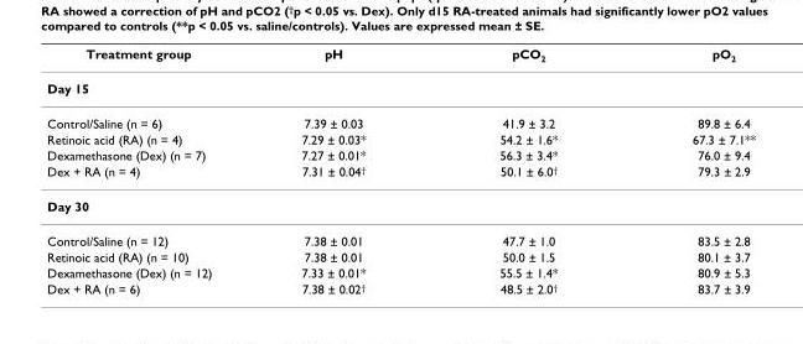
<table><thead><tr><td>Treatment group</td><td>pH</td><td>pCO2</td><td>pO2</td></tr></thead><tbody><tr><td colspan="4">Day 15</td></tr><tr><td>Control/Saline (n = 6)</td><td>7.39 ± 0.03</td><td>41.9 ± 3.2</td><td>89.8 ± 6.4</td></tr><tr><td>Retinoic acid (RA) (n = 4)</td><td>7.29 ± 0.03*</td><td>54.2 ± 1.6*</td><td>67.3 ± 7.1**</td></tr><tr><td>Dexamethasone (Dex) (n = 7)</td><td>7.27 ± 0.01*</td><td>56.3 ± 3.4*</td><td>76.0 ± 9.4</td></tr><tr><td>Dex + RA (n = 4)</td><td>7.31 ± 0.04<sup>†</sup></td><td>50.1 ± 6.0<sup>†</sup></td><td>79.3 ± 2.9</td></tr><tr><td colspan="4">Day 30</td></tr><tr><td>Control/Saline (n = 12)</td><td>7.38 ± 0.01</td><td>47.7 ± 1.0</td><td>83.5 ± 2.8</td></tr><tr><td>Retinoic acid (RA) (n = 10)</td><td>7.38 ± 0.01</td><td>50.0 ± 1.5</td><td>80.1 ± 3.7</td></tr><tr><td>Dexamethasone (Dex) (n = 12)</td><td>7.33 ± 0.01*</td><td>55.5 ± 1.4*</td><td>80.9 ± 5.3</td></tr><tr><td>Dex + RA (n = 6)</td><td>7.38 ± 0.02<sup>†</sup></td><td>48.5 ± 2.0<sup>†</sup></td><td>83.7 ± 3.9</td></tr></tbody></table>